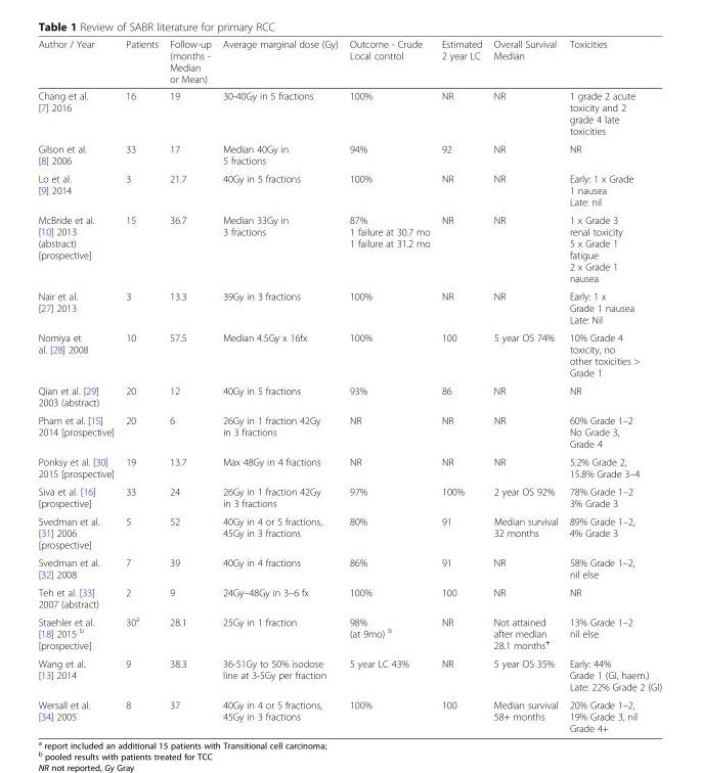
<table><thead><tr><td>Author / Year</td><td>Patients</td><td>Follow-up (months - Median or Mean)</td><td>Average marginal dose (Gy)</td><td>Outcome - Crude Local control</td><td>Estimated 2 year LC</td><td>Overall Survival Median</td><td>Toxicities</td></tr></thead><tbody><tr><td>Chang et al. [7] 2016</td><td>16</td><td>19</td><td>30-40Gy in 5 fractions</td><td>100%</td><td>NR</td><td>NR</td><td>1 grade 2 acute toxicity and 2 grade 4 late toxicities</td></tr><tr><td>Gilson et al. [8] 2006</td><td>33</td><td>17</td><td>Median 40Gy in 5 fractions</td><td>94%</td><td>92</td><td>NR</td><td>NR</td></tr><tr><td>Lo et al. [9] 2014</td><td>3</td><td>21.7</td><td>40Gy in 5 fractions</td><td>100%</td><td>NR</td><td>NR</td><td>Early: 1 x Grade 1 nausea Late: nil</td></tr><tr><td>McBride et al. [10] 2013 (abstract) [prospective]</td><td>15</td><td>36.7</td><td>Median 33Gy in 3 fractions</td><td>87% 1 failure at 30.7 mo 1 failure at 31.2 mo</td><td>NR</td><td>NR</td><td>1 x Grade 3 renal toxicity 5 x Grade 1 fatigue 2 x Grade 1 nausea</td></tr><tr><td>Nair et al. [27] 2013</td><td>3</td><td>13.3</td><td>39Gy in 3 fractions</td><td>100%</td><td>NR</td><td>NR</td><td>Early: 1 x Grade 1 nausea Late: Nil</td></tr><tr><td>Nomiya et al. [28] 2008</td><td>10</td><td>57.5</td><td>Median 4.5Gy x 16fx</td><td>100%</td><td>100</td><td>5 year OS 74%</td><td>10% Grade 4 toxicity, no other toxicities &gt; Grade 1</td></tr><tr><td>Qian et al. [29] 2003 (abstract)</td><td>20</td><td>12</td><td>40Gy in 5 fractions</td><td>93%</td><td>86</td><td>NR</td><td>NR</td></tr><tr><td>Pham et al. [15] 2014 [prospective]</td><td>20</td><td>6</td><td>26Gy in 1 fraction 42Gy in 3 fractions</td><td>NR</td><td>NR</td><td>NR</td><td>60% Grade 1–2 No Grade 3, Grade 4</td></tr><tr><td>Ponksy et al. [30] 2015 [prospective]</td><td>19</td><td>13.7</td><td>Max 48Gy in 4 fractions</td><td>NR</td><td>NR</td><td>NR</td><td>5.2% Grade 2, 15.8% Grade 3–4</td></tr><tr><td>Siva et al. [16] [prospective]</td><td>33</td><td>24</td><td>26Gy in 1 fraction 42Gy in 3 fractions</td><td>97%</td><td>100%</td><td>2 year OS 92%</td><td>78% Grade 1–2 3% Grade 3</td></tr><tr><td>Svedman et al. [31] 2006 [prospective]</td><td>5</td><td>52</td><td>40Gy in 4 or 5 fractions, 45Gy in 3 fractions</td><td>80%</td><td>91</td><td>Median survival 32 months</td><td>89% Grade 1–2, 4% Grade 3</td></tr><tr><td>Svedman et al. [32] 2008</td><td>7</td><td>39</td><td>40Gy in 4 fractions</td><td>86%</td><td>91</td><td>NR</td><td>58% Grade 1–2, nil else</td></tr><tr><td>Teh et al. [33] 2007 (abstract)</td><td>2</td><td>9</td><td>24Gy–48Gy in 3–6 fx</td><td>100%</td><td>100</td><td>NR</td><td>NR</td></tr><tr><td>Staehler et al. [18] 2015 <sup>b</sup> [prospective]</td><td>30<sup>a</sup></td><td>28.1</td><td>25Gy in 1 fraction</td><td>98% (at 9mo) <sup>b</sup></td><td>NR</td><td>Not attained after median 28.1 months<sup>+</sup></td><td>13% Grade 1–2 nil else</td></tr><tr><td>Wang et al. [13] 2014</td><td>9</td><td>38.3</td><td>36-51Gy to 50% isodose line at 3-5Gy per fraction</td><td>5 year LC 43%</td><td>NR</td><td>5 year OS 35%</td><td>Early: 44% Grade 1 (GI, haem.) Late: 22% Grade 2 (GI)</td></tr><tr><td>Wersall et al. [34] 2005</td><td>8</td><td>37</td><td>40Gy in 4 or 5 fractions, 45Gy in 3 fractions</td><td>100%</td><td>100</td><td>Median survival 58+ months</td><td>20% Grade 1–2, 19% Grade 3, nil Grade 4+</td></tr></tbody></table>